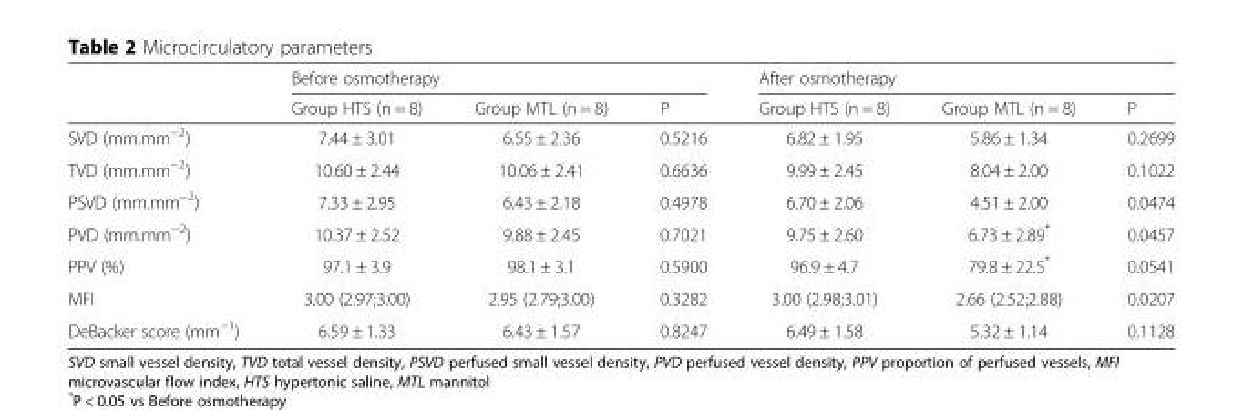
<table><thead><tr><td rowspan="2"></td><td colspan="3">Before osmotherapy</td><td colspan="3">After osmotherapy</td></tr><tr><td>Group HTS (n = 8)</td><td>Group MTL (n = 8)</td><td>P</td><td>Group HTS (n = 8)</td><td>Group MTL (n = 8)</td><td>P</td></tr></thead><tbody><tr><td>SVD (mm.mm<sup>−2</sup>)</td><td>7.44 ± 3.01</td><td>6.55 ± 2.36</td><td>0.5216</td><td>6.82 ± 1.95</td><td>5.86 ± 1.34</td><td>0.2699</td></tr><tr><td>TVD (mm.mm<sup>−2</sup>)</td><td>10.60 ± 2.44</td><td>10.06 ± 2.41</td><td>0.6636</td><td>9.99 ± 2.45</td><td>8.04 ± 2.00</td><td>0.1022</td></tr><tr><td>PSVD (mm.mm<sup>−2</sup>)</td><td>7.33 ± 2.95</td><td>6.43 ± 2.18</td><td>0.4978</td><td>6.70 ± 2.06</td><td>4.51 ± 2.00</td><td>0.0474</td></tr><tr><td>PVD (mm.mm<sup>−2</sup>)</td><td>10.37 ± 2.52</td><td>9.88 ± 2.45</td><td>0.7021</td><td>9.75 ± 2.60</td><td>6.73 ± 2.89*</td><td>0.0457</td></tr><tr><td>PPV (%)</td><td>97.1 ± 3.9</td><td>98.1 ± 3.1</td><td>0.5900</td><td>96.9 ± 4.7</td><td>79.8 ± 22.5*</td><td>0.0541</td></tr><tr><td>MFI</td><td>3.00 (2.97;3.00)</td><td>2.95 (2.79;3.00)</td><td>0.3282</td><td>3.00 (2.98;3.01)</td><td>2.66 (2.52;2.88)</td><td>0.0207</td></tr><tr><td>DeBacker score (mm<sup>−1</sup>)</td><td>6.59 ± 1.33</td><td>6.43 ± 1.57</td><td>0.8247</td><td>6.49 ± 1.58</td><td>5.32 ± 1.14</td><td>0.1128</td></tr></tbody></table>